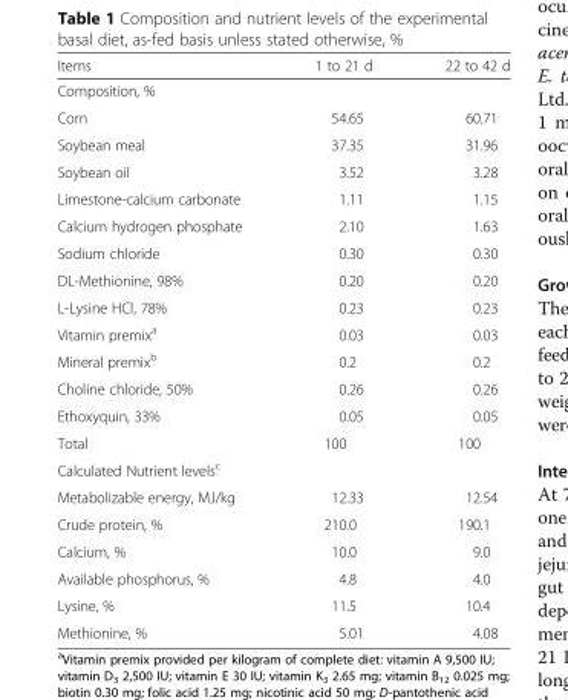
<table><thead><tr><td>Items</td><td>1 to 21 d</td><td>22 to 42 d</td></tr></thead><tbody><tr><td colspan="3">Composition, %</td></tr><tr><td>Corn</td><td>54.65</td><td>60.71</td></tr><tr><td>Soybean meal</td><td>37.35</td><td>31.96</td></tr><tr><td>Soybean oil</td><td>3.52</td><td>3.28</td></tr><tr><td>Limestone-calcium carbonate</td><td>1.11</td><td>1.15</td></tr><tr><td>Calcium hydrogen phosphate</td><td>2.10</td><td>1.63</td></tr><tr><td>Sodium chloride</td><td>0.30</td><td>0.30</td></tr><tr><td>DL-Methionine, 98%</td><td>0.20</td><td>0.20</td></tr><tr><td>L-Lysine HCl, 78%</td><td>0.23</td><td>0.23</td></tr><tr><td>Vitamin premix<sup>a</sup></td><td>0.03</td><td>0.03</td></tr><tr><td>Mineral premix<sup>b</sup></td><td>0.2</td><td>0.2</td></tr><tr><td>Choline chloride, 50%</td><td>0.26</td><td>0.26</td></tr><tr><td>Ethoxyquin, 33%</td><td>0.05</td><td>0.05</td></tr><tr><td>Total</td><td>100</td><td>100</td></tr><tr><td colspan="3">Calculated Nutrient levels<sup>c</sup></td></tr><tr><td>Metabolizable energy, MJ/kg</td><td>12.33</td><td>12.54</td></tr><tr><td>Crude protein, %</td><td>210.0</td><td>190.1</td></tr><tr><td>Calcium, %</td><td>10.0</td><td>9.0</td></tr><tr><td>Available phosphorus, %</td><td>4.8</td><td>4.0</td></tr><tr><td>Lysine, %</td><td>11.5</td><td>10.4</td></tr><tr><td>Methionine, %</td><td>5.01</td><td>4.08</td></tr></tbody></table>